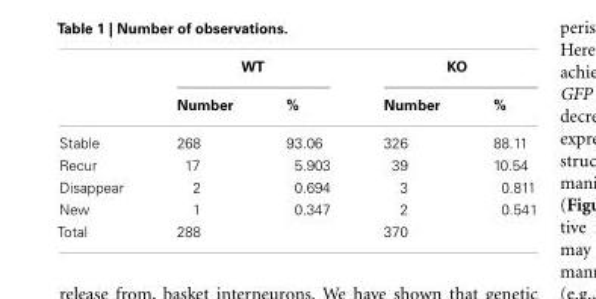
<table><thead><tr><td rowspan="2"></td><td colspan="2">WT</td><td colspan="2">KO</td></tr><tr><td>Number</td><td>%</td><td>Number</td><td>%</td></tr></thead><tbody><tr><td>Stable</td><td>268</td><td>93.06</td><td>326</td><td>88.11</td></tr><tr><td>Recur</td><td>17</td><td>5.903</td><td>39</td><td>10.54</td></tr><tr><td>Disappear</td><td>2</td><td>0.694</td><td>3</td><td>0.811</td></tr><tr><td>New</td><td>1</td><td>0.347</td><td>2</td><td>0.541</td></tr><tr><td>Total</td><td>288</td><td></td><td>370</td><td></td></tr></tbody></table>